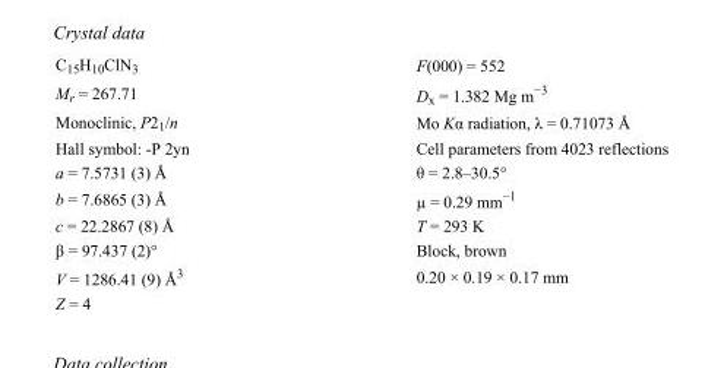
<table><tbody><tr><td>C<sub>15</sub>H<sub>10</sub>ClN<sub>3</sub></td><td>F(000) = 552</td></tr><tr><td>M<sub>r</sub> = 267.71</td><td>D<sub>x</sub> = 1.382 Mg m<sup>−3</sup></td></tr><tr><td>Monoclinic, P2<sub>1</sub>/n</td><td>Mo Kα radiation, λ = 0.71073 Å</td></tr><tr><td>Hall symbol: -P 2yn</td><td>Cell parameters from 4023 reflections</td></tr><tr><td>a = 7.5731 (3) Å</td><td>θ = 2.8–30.5°</td></tr><tr><td>b = 7.6865 (3) Å</td><td>µ = 0.29 mm<sup>−1</sup></td></tr><tr><td>c = 22.2867 (8) Å</td><td>T = 293 K</td></tr><tr><td>β = 97.437 (2)°</td><td>Block, brown</td></tr><tr><td>V = 1286.41 (9) Å<sup>3</sup></td><td>0.20 × 0.19 × 0.17 mm</td></tr><tr><td>Z = 4</td><td></td></tr></tbody></table>